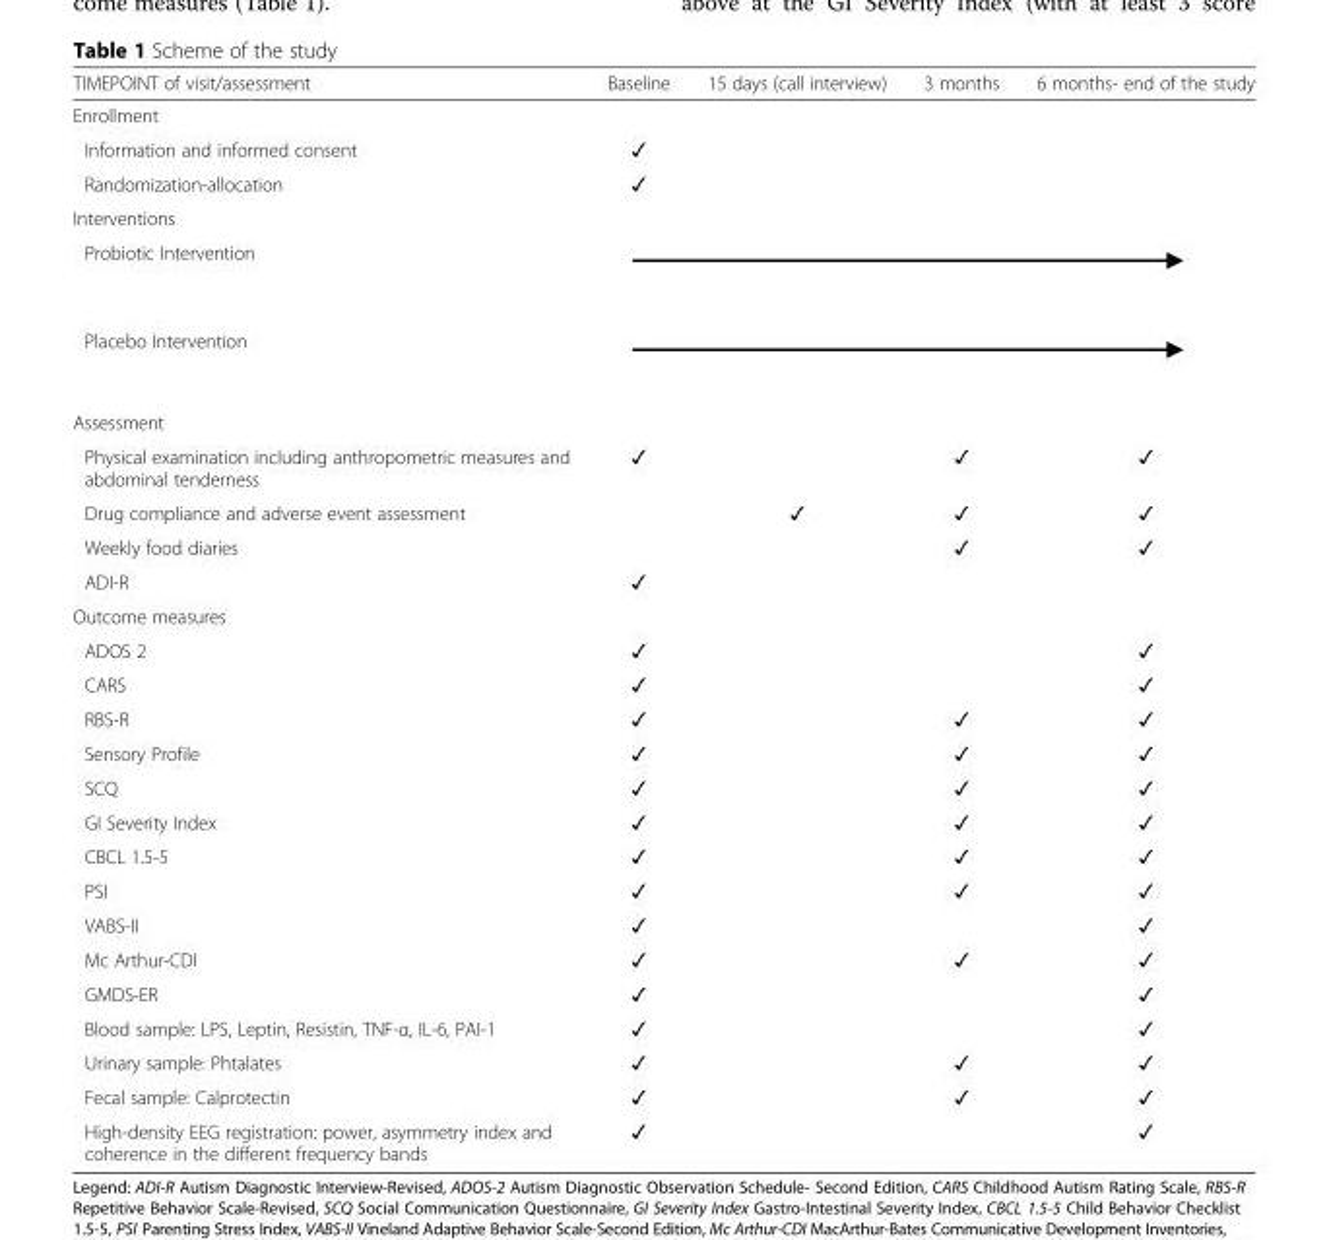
<table><thead><tr><td>TIMEPOINT of visit/assessment</td><td>Baseline</td><td>15 days (call interview)</td><td>3 months</td><td>6 months- end of the study</td></tr></thead><tbody><tr><td colspan="5">Enrollment</td></tr><tr><td>Information and informed consent</td><td>✓</td><td></td><td></td><td></td></tr><tr><td>Randomization-allocation</td><td>✓</td><td></td><td></td><td></td></tr><tr><td colspan="5">Interventions</td></tr><tr><td colspan="5">Probiotic Intervention Placebo Intervention</td></tr><tr><td colspan="5">Assessment</td></tr><tr><td>Physical examination including anthropometric measures and abdominal tenderness</td><td>✓</td><td></td><td>✓</td><td>✓</td></tr><tr><td>Drug compliance and adverse event assessment</td><td></td><td>✓</td><td>✓</td><td>✓</td></tr><tr><td>Weekly food diaries</td><td></td><td></td><td>✓</td><td>✓</td></tr><tr><td>ADI-R</td><td>✓</td><td></td><td></td><td></td></tr><tr><td colspan="5">Outcome measures</td></tr><tr><td>ADOS 2</td><td>✓</td><td></td><td></td><td>✓</td></tr><tr><td>CARS</td><td>✓</td><td></td><td></td><td>✓</td></tr><tr><td>RBS-R</td><td>✓</td><td></td><td>✓</td><td>✓</td></tr><tr><td>Sensory Profile</td><td>✓</td><td></td><td>✓</td><td>✓</td></tr><tr><td>SCQ</td><td>✓</td><td></td><td>✓</td><td>✓</td></tr><tr><td>GI Severity Index</td><td>✓</td><td></td><td>✓</td><td>✓</td></tr><tr><td>CBCL 1.5-5</td><td>✓</td><td></td><td>✓</td><td>✓</td></tr><tr><td>PSI</td><td>✓</td><td></td><td>✓</td><td>✓</td></tr><tr><td>VABS-II</td><td>✓</td><td></td><td></td><td>✓</td></tr><tr><td>Mc Arthur-CDI</td><td>✓</td><td></td><td>✓</td><td>✓</td></tr><tr><td>GMDS-ER</td><td>✓</td><td></td><td></td><td>✓</td></tr><tr><td>Blood sample: LPS, Leptin, Resistin, TNF-α, IL-6, PAI-1</td><td>✓</td><td></td><td></td><td>✓</td></tr><tr><td>Urinary sample: Phtalates</td><td>✓</td><td></td><td>✓</td><td>✓</td></tr><tr><td>Fecal sample: Calprotectin</td><td>✓</td><td></td><td>✓</td><td>✓</td></tr><tr><td>High-density EEG registration: power, asymmetry index and coherence in the different frequency bands</td><td>✓</td><td></td><td></td><td>✓</td></tr></tbody></table>